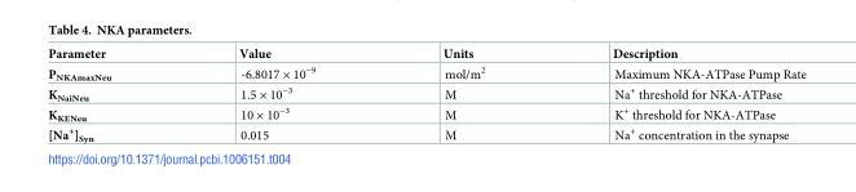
<table><thead><tr><td>Parameter</td><td>Value</td><td>Units</td><td>Description</td></tr></thead><tbody><tr><td>P<sub>NKAmaxNeu</sub></td><td>-6.8017 × 10<sup>−9</sup></td><td>mol/m<sup>2</sup></td><td>Maximum NKA-ATPase Pump Rate</td></tr><tr><td>K<sub>NaiNeu</sub></td><td>1.5 × 10<sup>−3</sup></td><td>M</td><td>Na<sup>+</sup> threshold for NKA-ATPase</td></tr><tr><td>K<sub>KENeu</sub></td><td>10 × 10<sup>−3</sup></td><td>M</td><td>K<sup>+</sup> threshold for NKA-ATPase</td></tr><tr><td>[Na<sup>+</sup>]<sub>Syn</sub></td><td>0.015</td><td>M</td><td>Na<sup>+</sup> concentration in the synapse</td></tr></tbody></table>